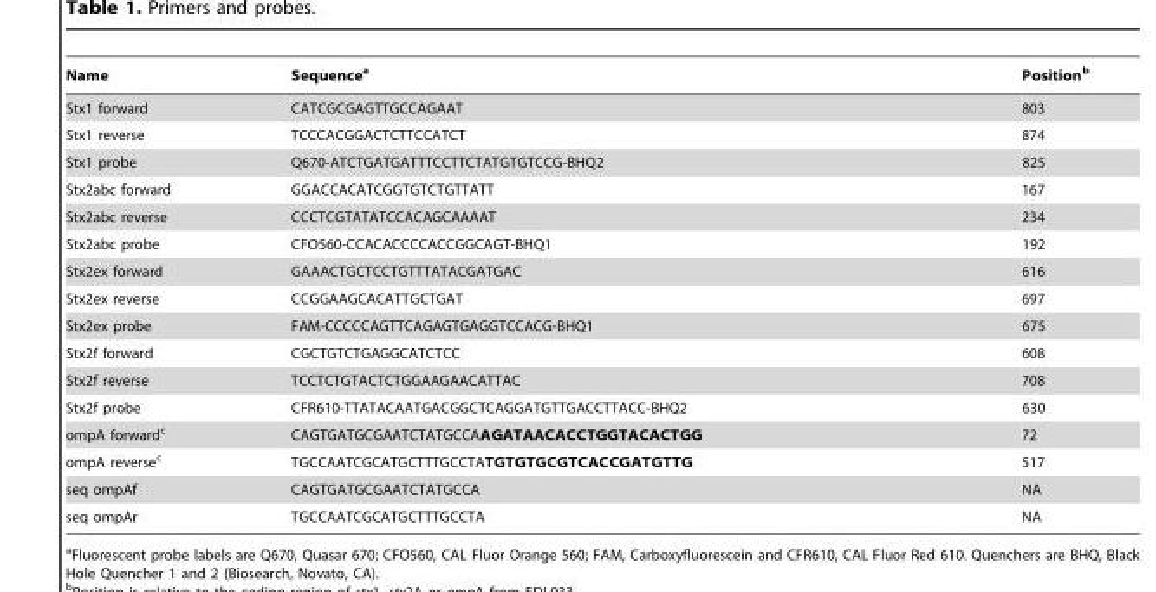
<table><thead><tr><td>Name</td><td>Sequence<sup>a</sup></td><td>Position<sup>b</sup></td></tr></thead><tbody><tr><td>Stx1 forward</td><td>CATCGCGAGTTGCCAGAAT</td><td>803</td></tr><tr><td>Stx1 reverse</td><td>TCCCACGGACTCTTCCATCT</td><td>874</td></tr><tr><td>Stx1 probe</td><td>Q670-ATCTGATGATTTCCTTCTATGTGTCCG-BHQ2</td><td>825</td></tr><tr><td>Stx2abc forward</td><td>GGACCACATCGGTGTCTGTTATT</td><td>167</td></tr><tr><td>Stx2abc reverse</td><td>CCCTCGTATATCCACAGCAAAAT</td><td>234</td></tr><tr><td>Stx2abc probe</td><td>CFO560-CCACACCCCACCGGCAGT-BHQ1</td><td>192</td></tr><tr><td>Stx2ex forward</td><td>GAAACTGCTCCTGTTTATACGATGAC</td><td>616</td></tr><tr><td>Stx2ex reverse</td><td>CCGGAAGCACATTGCTGAT</td><td>697</td></tr><tr><td>Stx2ex probe</td><td>FAM-CCCCCAGTTCAGAGTGAGGTCCACG-BHQ1</td><td>675</td></tr><tr><td>Stx2f forward</td><td>CGCTGTCTGAGGCATCTCC</td><td>608</td></tr><tr><td>Stx2f reverse</td><td>TCCTCTGTACTCTGGAAGAACATTAC</td><td>708</td></tr><tr><td>Stx2f probe</td><td>CFR610-TTATACAATGACGGCTCAGGATGTTGACCTTACC-BHQ2</td><td>630</td></tr><tr><td>ompA forward<sup>c</sup></td><td>CAGTGATGCGAATCTATGCCAAGATAACACCTGGTACACTGG</td><td>72</td></tr><tr><td>ompA reverse<sup>c</sup></td><td>TGCCAATCGCATGCTTTGCCTATGTGTGCGTCACCGATGTTG</td><td>517</td></tr><tr><td>seq ompAf</td><td>CAGTGATGCGAATCTATGCCA</td><td>NA</td></tr><tr><td>seq ompAr</td><td>TGCCAATCGCATGCTTTGCCTA</td><td>NA</td></tr></tbody></table>